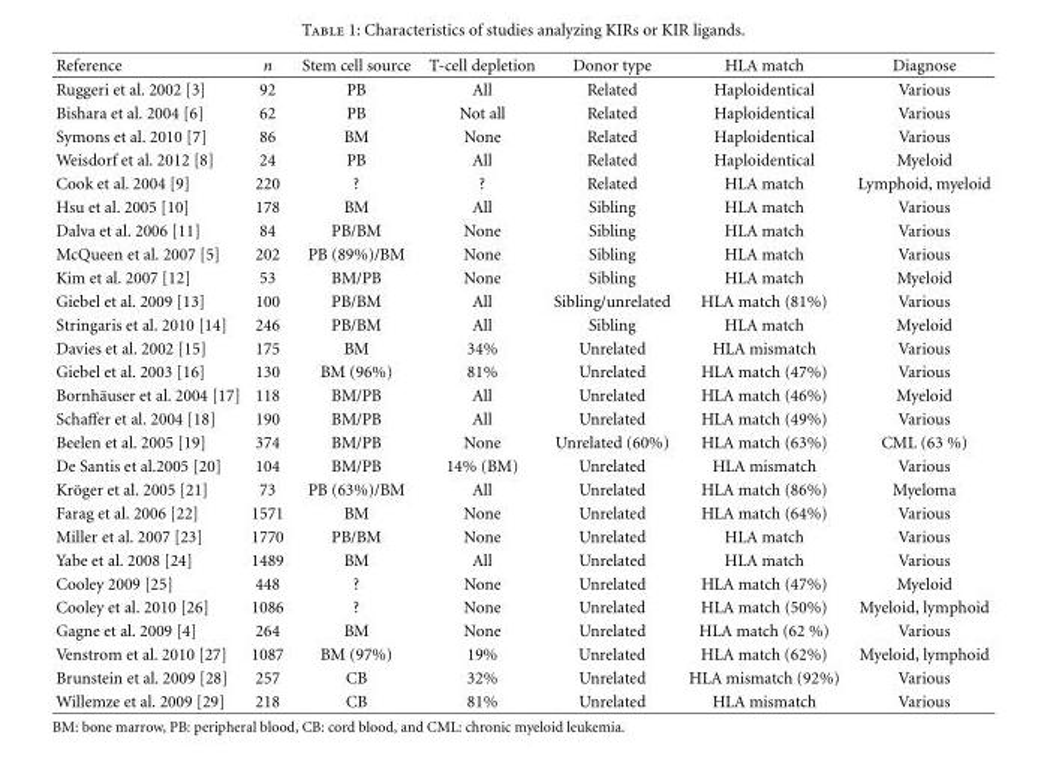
<table><thead><tr><td>Reference</td><td>n</td><td>Stem cell source</td><td>T-cell depletion</td><td>Donor type</td><td>HLA match</td><td>Diagnose</td></tr></thead><tbody><tr><td>Ruggeri et al. 2002 [3]</td><td>92</td><td>PB</td><td>All</td><td>Related</td><td>Haploidentical</td><td>Various</td></tr><tr><td>Bishara et al. 2004 [6]</td><td>62</td><td>PB</td><td>Not all</td><td>Related</td><td>Haploidentical</td><td>Various</td></tr><tr><td>Symons et al. 2010 [7]</td><td>86</td><td>BM</td><td>None</td><td>Related</td><td>Haploidentical</td><td>Various</td></tr><tr><td>Weisdorf et al. 2012 [8]</td><td>24</td><td>PB</td><td>All</td><td>Related</td><td>Haploidentical</td><td>Myeloid</td></tr><tr><td>Cook et al. 2004 [9]</td><td>220</td><td>?</td><td>?</td><td>Related</td><td>HLA match</td><td>Lymphoid, myeloid</td></tr><tr><td>Hsu et al. 2005 [10]</td><td>178</td><td>BM</td><td>All</td><td>Sibling</td><td>HLA match</td><td>Various</td></tr><tr><td>Dalva et al. 2006 [11]</td><td>84</td><td>PB/BM</td><td>None</td><td>Sibling</td><td>HLA match</td><td>Various</td></tr><tr><td>McQueen et al. 2007 [5]</td><td>202</td><td>PB (89%)/BM</td><td>None</td><td>Sibling</td><td>HLA match</td><td>Various</td></tr><tr><td>Kim et al. 2007 [12]</td><td>53</td><td>BM/PB</td><td>None</td><td>Sibling</td><td>HLA match</td><td>Myeloid</td></tr><tr><td>Giebel et al. 2009 [13]</td><td>100</td><td>PB/BM</td><td>All</td><td>Sibling/unrelated</td><td>HLA match (81%)</td><td>Various</td></tr><tr><td>Stringaris et al. 2010 [14]</td><td>246</td><td>PB/BM</td><td>All</td><td>Sibling</td><td>HLA match</td><td>Myeloid</td></tr><tr><td>Davies et al. 2002 [15]</td><td>175</td><td>BM</td><td>34%</td><td>Unrelated</td><td>HLA mismatch</td><td>Various</td></tr><tr><td>Giebel et al. 2003 [16]</td><td>130</td><td>BM (96%)</td><td>81%</td><td>Unrelated</td><td>HLA match (47%)</td><td>Various</td></tr><tr><td>Bornh¨auser et al. 2004 [17]</td><td>118</td><td>BM/PB</td><td>All</td><td>Unrelated</td><td>HLA match (46%)</td><td>Myeloid</td></tr><tr><td>Schaffer et al. 2004 [18]</td><td>190</td><td>BM/PB</td><td>All</td><td>Unrelated</td><td>HLA match (49%)</td><td>Various</td></tr><tr><td>Beelen et al. 2005 [19]</td><td>374</td><td>BM/PB</td><td>None</td><td>Unrelated (60%)</td><td>HLA match (63%)</td><td>CML (63 %)</td></tr><tr><td>De Santis et al.2005 [20]</td><td>104</td><td>BM/PB</td><td>14% (BM)</td><td>Unrelated</td><td>HLA mismatch</td><td>Various</td></tr><tr><td>Kr¨oger et al. 2005 [21]</td><td>73</td><td>PB (63%)/BM</td><td>All</td><td>Unrelated</td><td>HLA match (86%)</td><td>Myeloma</td></tr><tr><td>Farag et al. 2006 [22]</td><td>1571</td><td>BM</td><td>None</td><td>Unrelated</td><td>HLA match (64%)</td><td>Various</td></tr><tr><td>Miller et al. 2007 [23]</td><td>1770</td><td>PB/BM</td><td>None</td><td>Unrelated</td><td>HLA match</td><td>Various</td></tr><tr><td>Yabe et al. 2008 [24]</td><td>1489</td><td>BM</td><td>All</td><td>Unrelated</td><td>HLA match</td><td>Various</td></tr><tr><td>Cooley 2009 [25]</td><td>448</td><td>?</td><td>None</td><td>Unrelated</td><td>HLA match (47%)</td><td>Myeloid</td></tr><tr><td>Cooley et al. 2010 [26]</td><td>1086</td><td>?</td><td>None</td><td>Unrelated</td><td>HLA match (50%)</td><td>Myeloid, lymphoid</td></tr><tr><td>Gagne et al. 2009 [4]</td><td>264</td><td>BM</td><td>None</td><td>Unrelated</td><td>HLA match (62 %)</td><td>Various</td></tr><tr><td>Venstrom et al. 2010 [27]</td><td>1087</td><td>BM (97%)</td><td>19%</td><td>Unrelated</td><td>HLA match (62%)</td><td>Myeloid, lymphoid</td></tr><tr><td>Brunstein et al. 2009 [28]</td><td>257</td><td>CB</td><td>32%</td><td>Unrelated</td><td>HLA mismatch (92%)</td><td>Various</td></tr><tr><td>Willemze et al. 2009 [29]</td><td>218</td><td>CB</td><td>81%</td><td>Unrelated</td><td>HLA mismatch</td><td>Various</td></tr></tbody></table>